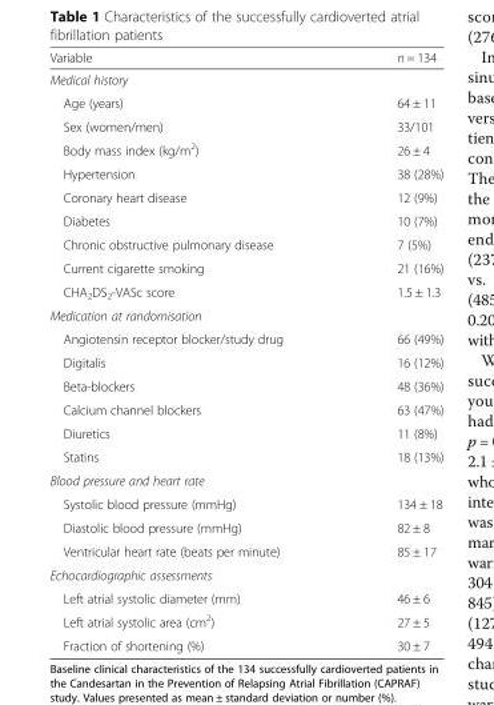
<table><thead><tr><td>Variable</td><td>n = 134</td></tr></thead><tbody><tr><td colspan="2">Medical history</td></tr><tr><td>Age (years)</td><td>64 ± 11</td></tr><tr><td>Sex (women/men)</td><td>33/101</td></tr><tr><td>Body mass index (kg/m<sup>2</sup>)</td><td>26 ± 4</td></tr><tr><td>Hypertension</td><td>38 (28%)</td></tr><tr><td>Coronary heart disease</td><td>12 (9%)</td></tr><tr><td>Diabetes</td><td>10 (7%)</td></tr><tr><td>Chronic obstructive pulmonary disease</td><td>7 (5%)</td></tr><tr><td>Current cigarette smoking</td><td>21 (16%)</td></tr><tr><td>CHA<sub>2</sub>DS<sub>2</sub>-VASc score</td><td>1.5 ± 1.3</td></tr><tr><td colspan="2">Medication at randomisation</td></tr><tr><td>Angiotensin receptor blocker/study drug</td><td>66 (49%)</td></tr><tr><td>Digitalis</td><td>16 (12%)</td></tr><tr><td>Beta-blockers</td><td>48 (36%)</td></tr><tr><td>Calcium channel blockers</td><td>63 (47%)</td></tr><tr><td>Diuretics</td><td>11 (8%)</td></tr><tr><td>Statins</td><td>18 (13%)</td></tr><tr><td colspan="2">Blood pressure and heart rate</td></tr><tr><td>Systolic blood pressure (mmHg)</td><td>134 ± 18</td></tr><tr><td>Diastolic blood pressure (mmHg)</td><td>82 ± 8</td></tr><tr><td>Ventricular heart rate (beats per minute)</td><td>85 ± 17</td></tr><tr><td colspan="2">Echocardiographic assessments</td></tr><tr><td>Left atrial systolic diameter (mm)</td><td>46 ± 6</td></tr><tr><td>Left atrial systolic area (cm<sup>2</sup>)</td><td>27 ± 5</td></tr><tr><td>Fraction of shortening (%)</td><td>30 ± 7</td></tr></tbody></table>